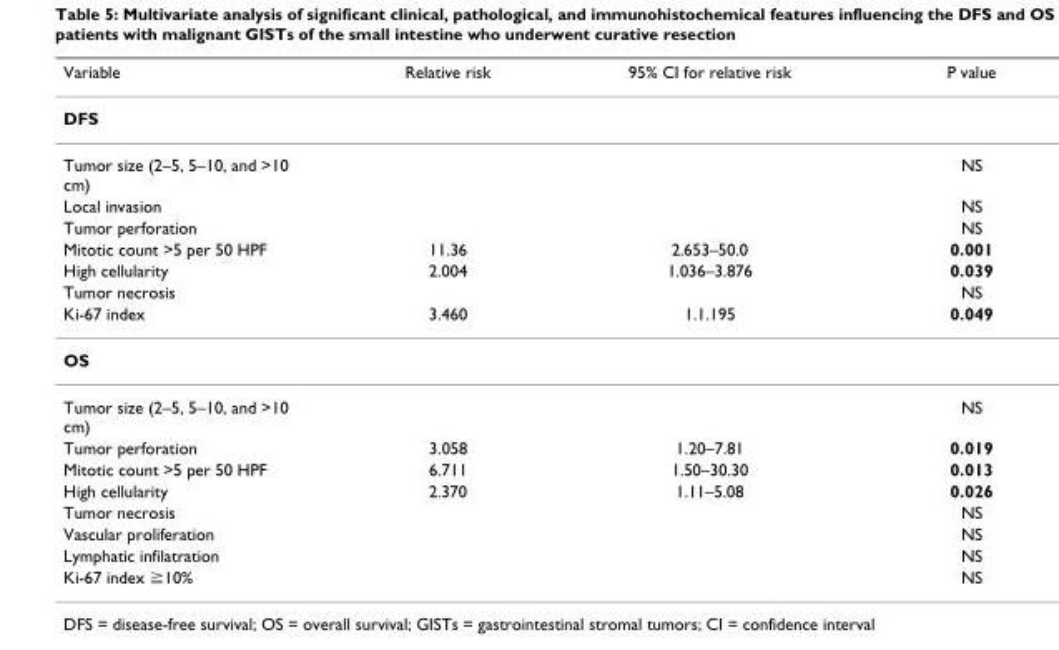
<table><thead><tr><td>Variable</td><td>Relative risk</td><td>95% CI for relative risk</td><td>P value</td></tr></thead><tbody><tr><td colspan="4">DFS</td></tr><tr><td>Tumor size (2–5, 5–10, and &gt;10 cm)</td><td></td><td></td><td>NS</td></tr><tr><td>Local invasion</td><td></td><td></td><td>NS</td></tr><tr><td>Tumor perforation</td><td></td><td></td><td>NS</td></tr><tr><td>Mitotic count &gt;5 per 50 HPF</td><td>11.36</td><td>2.653–50.0</td><td>0.001</td></tr><tr><td>High cellularity</td><td>2.004</td><td>1.036–3.876</td><td>0.039</td></tr><tr><td>Tumor necrosis</td><td></td><td></td><td>NS</td></tr><tr><td>Ki-67 index</td><td>3.460</td><td>1.1.195</td><td>0.049</td></tr><tr><td colspan="4">OS</td></tr><tr><td>Tumor size (2–5, 5–10, and &gt;10 cm)</td><td></td><td></td><td>NS</td></tr><tr><td>Tumor perforation</td><td>3.058</td><td>1.20–7.81</td><td>0.019</td></tr><tr><td>Mitotic count &gt;5 per 50 HPF</td><td>6.711</td><td>1.50–30.30</td><td>0.013</td></tr><tr><td>High cellularity</td><td>2.370</td><td>1.11–5.08</td><td>0.026</td></tr><tr><td>Tumor necrosis</td><td></td><td></td><td>NS</td></tr><tr><td>Vascular proliferation</td><td></td><td></td><td>NS</td></tr><tr><td>Lymphatic infilatration</td><td></td><td></td><td>NS</td></tr><tr><td>Ki-67 index ≧10%</td><td></td><td></td><td>NS</td></tr></tbody></table>